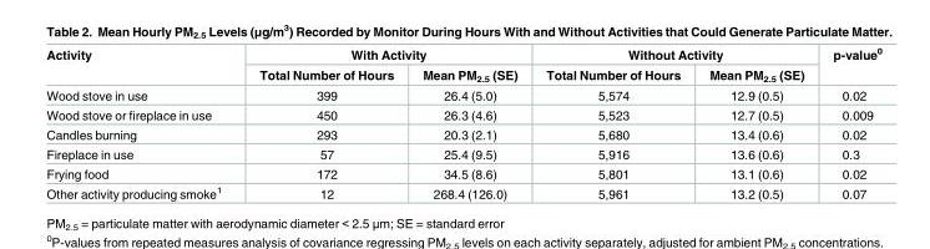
<table><thead><tr><td rowspan="2">Activity</td><td colspan="2">With Activity</td><td colspan="2">Without Activity</td><td rowspan="2">p-value<sup>0</sup></td></tr><tr><td>Total Number of Hours</td><td>Mean PM<sub>2.5</sub> (SE)</td><td>Total Number of Hours</td><td>Mean PM<sub>2.5</sub> (SE)</td></tr></thead><tbody><tr><td>Wood stove in use</td><td>399</td><td>26.4 (5.0)</td><td>5,574</td><td>12.9 (0.5)</td><td>0.02</td></tr><tr><td>Wood stove or fireplace in use</td><td>450</td><td>26.3 (4.6)</td><td>5,523</td><td>12.7 (0.5)</td><td>0.009</td></tr><tr><td>Candles burning</td><td>293</td><td>20.3 (2.1)</td><td>5,680</td><td>13.4 (0.6)</td><td>0.02</td></tr><tr><td>Fireplace in use</td><td>57</td><td>25.4 (9.5)</td><td>5,916</td><td>13.6 (0.6)</td><td>0.3</td></tr><tr><td>Frying food</td><td>172</td><td>34.5 (8.6)</td><td>5,801</td><td>13.1 (0.6)</td><td>0.02</td></tr><tr><td>Other activity producing smoke<sup>1</sup></td><td>12</td><td>268.4 (126.0)</td><td>5,961</td><td>13.2 (0.5)</td><td>0.07</td></tr></tbody></table>